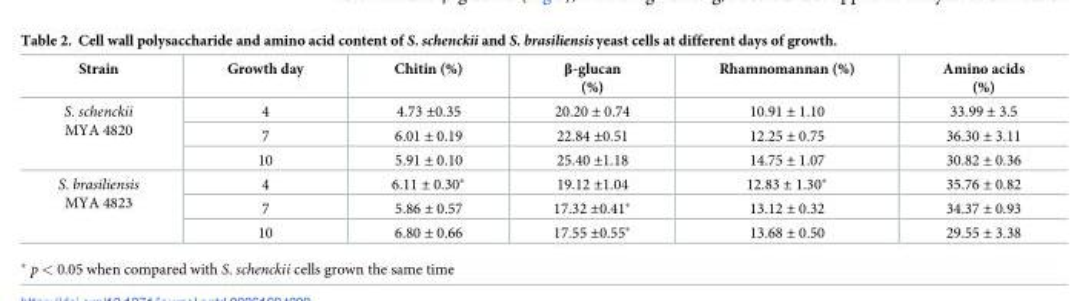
<table><thead><tr><td>Strain</td><td>Growth day</td><td>Chitin (%)</td><td>β-glucan (%)</td><td>Rhamnomannan (%)</td><td>Amino acids (%)</td></tr></thead><tbody><tr><td rowspan="3">S. schenckii MYA 4820</td><td>4</td><td>4.73 ±0.35</td><td>20.20 ± 0.74</td><td>10.91 ± 1.10</td><td>33.99 ± 3.5</td></tr><tr><td>7</td><td>6.01 ± 0.19</td><td>22.84 ±0.51</td><td>12.25 ± 0.75</td><td>36.30 ± 3.11</td></tr><tr><td>10</td><td>5.91 ± 0.10</td><td>25.40 ±1.18</td><td>14.75 ± 1.07</td><td>30.82 ± 0.36</td></tr><tr><td rowspan="3">S. brasiliensis MYA 4823</td><td>4</td><td>6.11 ± 0.30*</td><td>19.12 ±1.04</td><td>12.83 ± 1.30*</td><td>35.76 ± 0.82</td></tr><tr><td>7</td><td>5.86 ± 0.57</td><td>17.32 ±0.41*</td><td>13.12 ± 0.32</td><td>34.37 ± 0.93</td></tr><tr><td>10</td><td>6.80 ± 0.66</td><td>17.55 ±0.55*</td><td>13.68 ± 0.50</td><td>29.55 ± 3.38</td></tr></tbody></table>